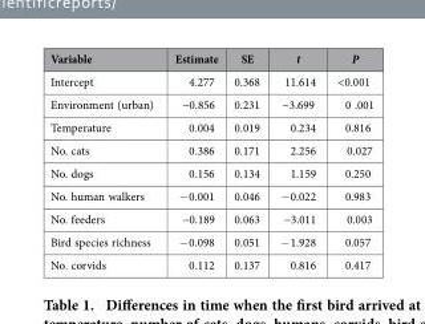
<table><thead><tr><td>Variable</td><td>Estimate</td><td>SE</td><td>t</td><td>P</td></tr></thead><tbody><tr><td>Intercept</td><td>4.277</td><td>0.368</td><td>11.614</td><td>&lt;0.001</td></tr><tr><td>Environment (urban)</td><td>−0.856</td><td>0.231</td><td>−3.699</td><td>0 .001</td></tr><tr><td>Temperature</td><td>0.004</td><td>0.019</td><td>0.234</td><td>0.816</td></tr><tr><td>No. cats</td><td>0.386</td><td>0.171</td><td>2.256</td><td>0.027</td></tr><tr><td>No. dogs</td><td>0.156</td><td>0.134</td><td>1.159</td><td>0.250</td></tr><tr><td>No. human walkers</td><td>− 0.001</td><td>0.046</td><td>− 0.022</td><td>0.983</td></tr><tr><td>No. feeders</td><td>−0.189</td><td>0.063</td><td>−3.011</td><td>0.003</td></tr><tr><td>Bird species richness</td><td>− 0.098</td><td>0.051</td><td>− 1.928</td><td>0.057</td></tr><tr><td>No. corvids</td><td>0.112</td><td>0.137</td><td>0.816</td><td>0.417</td></tr></tbody></table>